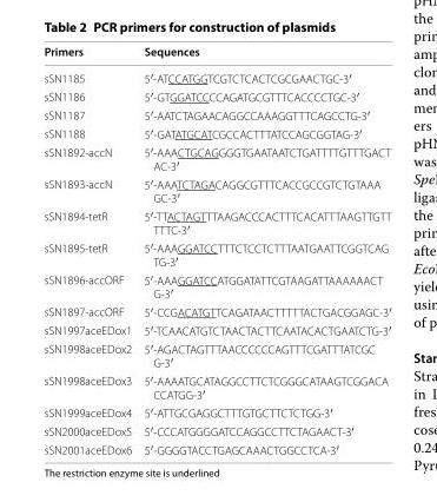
<table><thead><tr><td>Primers</td><td>Sequences</td></tr></thead><tbody><tr><td>sSN1185</td><td>5′-ATCCATGGTCGTCTCACTCGCGAACTGC-3′</td></tr><tr><td>sSN1186</td><td>5′-GTGGATCCCCAGATGCGTTTCACCCCTGC-3′</td></tr><tr><td>sSN1187</td><td>5′-AATCTAGAACAGGCCAAAGGTTTCAGCCTG-3′</td></tr><tr><td>sSN1188</td><td>5′-GATATGCATCGCCACTTTATCCAGCGGTAG-3′</td></tr><tr><td>sSN1892-accN</td><td>5′-AAACTGCAGGGGTGAATAATCTGATTTTGTTTGACT AC-3′</td></tr><tr><td>sSN1893-accN</td><td>5′-AAATCTAGACAGGCGTTTCACCGCCGTCTGTAAA GC-3′</td></tr><tr><td>sSN1894-tetR</td><td>5′-TTACTAGTTTAAGACCCACTTTCACATTTAAGTTGTT TTTC-3′</td></tr><tr><td>sSN1895-tetR</td><td>5′-AAAGGATCCTTTCTCCTCTTTAATGAATTCGGTCAG TG-3′</td></tr><tr><td>sSN1896-accORF</td><td>5′-AAAGGATCCATGGATATTCGTAAGATTAAAAAACT G-3′</td></tr><tr><td>sSN1897-accORF</td><td>5′-CCGACATGTTCAGATAACTTTTTACTGACGGAGC-3′</td></tr><tr><td>sSN1997aceEDox1</td><td>5′-TCAACATGTCTAACTACTTCAATACACTGAATCTG-3′</td></tr><tr><td>sSN1998aceEDox2</td><td>5′-AGACTAGTTTAACCCCCCAGTTTCGATTTATCGC G-3′</td></tr><tr><td>sSN1998aceEDox3</td><td>5′-AAAATGCATAGGCCTTCTCGGGCATAAGTCGGACA CCATGG-3′</td></tr><tr><td>sSN1999aceEDox4</td><td>5′-ATTGCGAGGCTTTGTGCTTCTCTGG-3′</td></tr><tr><td>sSN2000aceEDox5</td><td>5′-CCCATGGGGATCCAGGCCTTCTAGAACT-3′</td></tr><tr><td>sSN2001aceEDox6</td><td>5′-GGGGTACCTGAGCAAACTGGCCTCA-3′</td></tr></tbody></table>